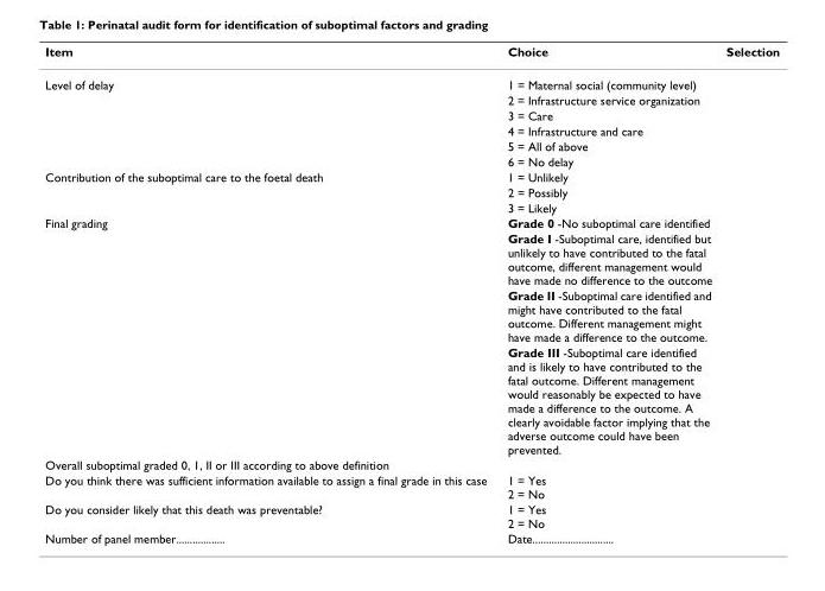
<table><thead><tr><td>Item</td><td>Choice</td><td>Selection</td></tr></thead><tbody><tr><td rowspan="6">Level of delay</td><td>1 = Maternal social (community level)</td><td></td></tr><tr><td>2 = Infrastructure service organization</td><td></td></tr><tr><td>3 = Care</td><td></td></tr><tr><td>4 = Infrastructure and care</td><td></td></tr><tr><td>5 = All of above</td><td></td></tr><tr><td>6 = No delay</td><td></td></tr><tr><td rowspan="3">Contribution of the suboptimal care to the foetal death</td><td>1 = Unlikely</td><td></td></tr><tr><td>2 = Possibly</td><td></td></tr><tr><td>3 = Likely</td><td></td></tr><tr><td rowspan="4">Final grading</td><td>Grade 0 -No suboptimal care identified</td><td></td></tr><tr><td>Grade I -Suboptimal care, identified but unlikely to have contributed to the fatal outcome, different management would have made no difference to the outcome</td><td></td></tr><tr><td>Grade II -Suboptimal care identified and might have contributed to the fatal outcome. Different management might have made a difference to the outcome.</td><td></td></tr><tr><td>Grade III -Suboptimal care identified and is likely to have contributed to the fatal outcome. Different management would reasonably be expected to have made a difference to the outcome. A clearly avoidable factor implying that the adverse outcome could have been prevented.</td><td></td></tr><tr><td colspan="3">Overall suboptimal graded 0, 1, II or III according to above definition</td></tr><tr><td>Do you think there was sufficient information available to assign a final grade in this case</td><td>1 = Yes 2 = No</td><td></td></tr><tr><td>Do you consider likely that this death was preventable?</td><td>1 = Yes 2 = No</td><td></td></tr><tr><td>Number of panel member..................</td><td>Date..............................</td><td></td></tr></tbody></table>